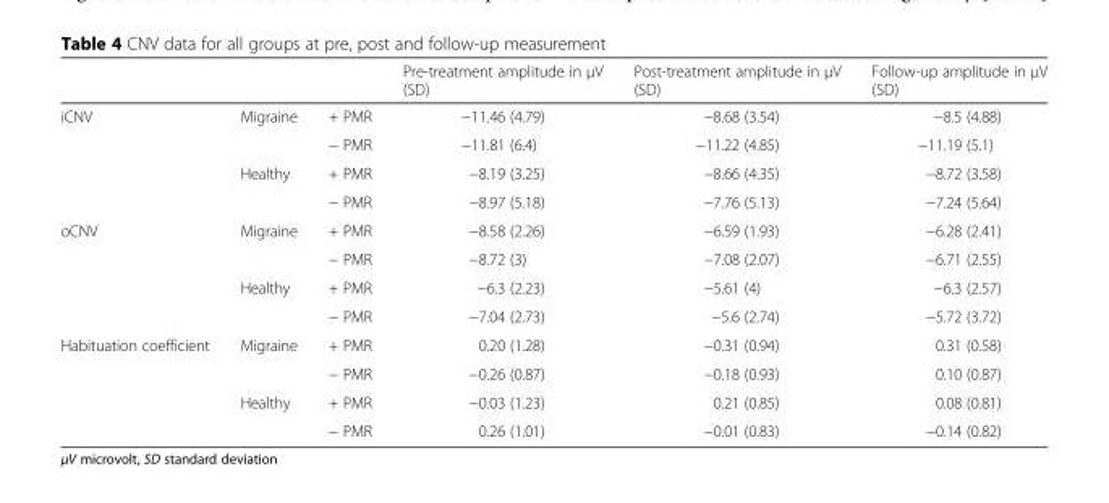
<table><thead><tr><td></td><td></td><td></td><td>Pre-treatment amplitude in μV (SD)</td><td>Post-treatment amplitude in μV (SD)</td><td>Follow-up amplitude in μV (SD)</td></tr></thead><tbody><tr><td rowspan="4">iCNV</td><td rowspan="2">Migraine</td><td>+ PMR</td><td>−11.46 (4.79)</td><td>−8.68 (3.54)</td><td>−8.5 (4.88)</td></tr><tr><td>− PMR</td><td>−11.81 (6.4)</td><td>−11.22 (4.85)</td><td>−11.19 (5.1)</td></tr><tr><td rowspan="2">Healthy</td><td>+ PMR</td><td>−8.19 (3.25)</td><td>−8.66 (4.35)</td><td>−8.72 (3.58)</td></tr><tr><td>− PMR</td><td>−8.97 (5.18)</td><td>−7.76 (5.13)</td><td>−7.24 (5.64)</td></tr><tr><td rowspan="4">oCNV</td><td rowspan="2">Migraine</td><td>+ PMR</td><td>−8.58 (2.26)</td><td>−6.59 (1.93)</td><td>−6.28 (2.41)</td></tr><tr><td>− PMR</td><td>−8.72 (3)</td><td>−7.08 (2.07)</td><td>−6.71 (2.55)</td></tr><tr><td rowspan="2">Healthy</td><td>+ PMR</td><td>−6.3 (2.23)</td><td>−5.61 (4)</td><td>−6.3 (2.57)</td></tr><tr><td>− PMR</td><td>−7.04 (2.73)</td><td>−5.6 (2.74)</td><td>−5.72 (3.72)</td></tr><tr><td rowspan="4">Habituation coefficient</td><td rowspan="2">Migraine</td><td>+ PMR</td><td>0.20 (1.28)</td><td>−0.31 (0.94)</td><td>0.31 (0.58)</td></tr><tr><td>− PMR</td><td>−0.26 (0.87)</td><td>−0.18 (0.93)</td><td>0.10 (0.87)</td></tr><tr><td rowspan="2">Healthy</td><td>+ PMR</td><td>−0.03 (1.23)</td><td>0.21 (0.85)</td><td>0.08 (0.81)</td></tr><tr><td>− PMR</td><td>0.26 (1.01)</td><td>−0.01 (0.83)</td><td>−0.14 (0.82)</td></tr></tbody></table>